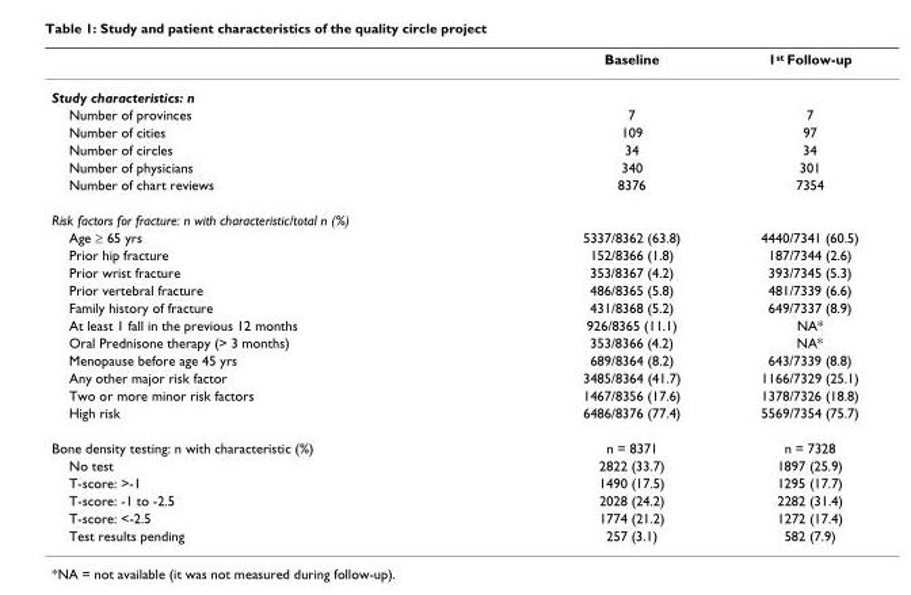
<table><thead><tr><td></td><td>Baseline</td><td>1<sup>st</sup> Follow-up</td></tr></thead><tbody><tr><td colspan="3">Study characteristics: n</td></tr><tr><td>Number of provinces</td><td>7</td><td>7</td></tr><tr><td>Number of cities</td><td>109</td><td>97</td></tr><tr><td>Number of circles</td><td>34</td><td>34</td></tr><tr><td>Number of physicians</td><td>340</td><td>301</td></tr><tr><td>Number of chart reviews</td><td>8376</td><td>7354</td></tr><tr><td colspan="3">Risk factors for fracture: n with characteristic/total n (%)</td></tr><tr><td>Age ≥ 65 yrs</td><td>5337/8362 (63.8)</td><td>4440/7341 (60.5)</td></tr><tr><td>Prior hip fracture</td><td>152/8366 (1.8)</td><td>187/7344 (2.6)</td></tr><tr><td>Prior wrist fracture</td><td>353/8367 (4.2)</td><td>393/7345 (5.3)</td></tr><tr><td>Prior vertebral fracture</td><td>486/8365 (5.8)</td><td>481/7339 (6.6)</td></tr><tr><td>Family history of fracture</td><td>431/8368 (5.2)</td><td>649/7337 (8.9)</td></tr><tr><td>At least 1 fall in the previous 12 months</td><td>926/8365 (11.1)</td><td>NA*</td></tr><tr><td>Oral Prednisone therapy (&gt; 3 months)</td><td>353/8366 (4.2)</td><td>NA*</td></tr><tr><td>Menopause before age 45 yrs</td><td>689/8364 (8.2)</td><td>643/7339 (8.8)</td></tr><tr><td>Any other major risk factor</td><td>3485/8364 (41.7)</td><td>1166/7329 (25.1)</td></tr><tr><td>Two or more minor risk factors</td><td>1467/8356 (17.6)</td><td>1378/7326 (18.8)</td></tr><tr><td>High risk</td><td>6486/8376 (77.4)</td><td>5569/7354 (75.7)</td></tr><tr><td>Bone density testing: n with characteristic (%)</td><td>n = 8371</td><td>n = 7328</td></tr><tr><td>No test</td><td>2822 (33.7)</td><td>1897 (25.9)</td></tr><tr><td>T-score: &gt;-1</td><td>1490 (17.5)</td><td>1295 (17.7)</td></tr><tr><td>T-score: -1 to -2.5</td><td>2028 (24.2)</td><td>2282 (31.4)</td></tr><tr><td>T-score: &lt;-2.5</td><td>1774 (21.2)</td><td>1272 (17.4)</td></tr><tr><td>Test results pending</td><td>257 (3.1)</td><td>582 (7.9)</td></tr></tbody></table>